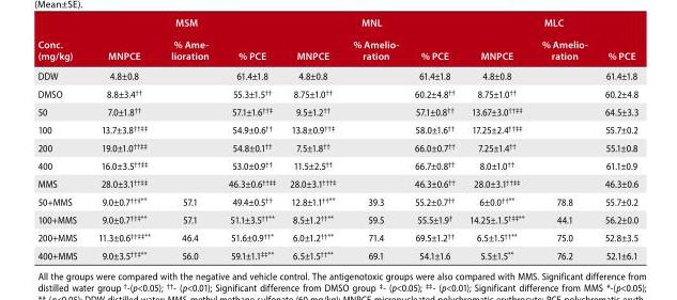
<table><thead><tr><td>Conc. (mg/kg)</td><td>MNPCE</td><td>% Ame- lioration</td><td>% PCE</td><td>MNPCE</td><td>% Amelio- ration</td><td>% PCE</td><td>MNPCE</td><td>% Amelio- ration</td><td>% PCE</td></tr></thead><tbody><tr><td>DDW</td><td>4.8±0.8</td><td></td><td>61.4±1.8</td><td>4.8±0.8</td><td></td><td>61.4±1.8</td><td>4.8±0.8</td><td></td><td>61.4±1.8</td></tr><tr><td>DMSO</td><td>8.8±3.4<sup>††</sup></td><td></td><td>55.3±1.5<sup>††</sup></td><td>8.75±1.0<sup>††</sup></td><td></td><td>60.2±4.8<sup>††</sup></td><td>8.75±1.0<sup>††</sup></td><td></td><td>60.2±4.8</td></tr><tr><td>50</td><td>7.0±1.8<sup>††</sup></td><td></td><td>57.1±1.6<sup>††‡</sup></td><td>9.5±1.2<sup>††</sup></td><td></td><td>57.1±0.8<sup>††</sup></td><td>13.67±3.0<sup>††‡‡</sup></td><td></td><td>64.5±3.3</td></tr><tr><td>100</td><td>13.7±3.8<sup>††‡‡</sup></td><td></td><td>54.9±0.6<sup>††</sup></td><td>13.8±0.9<sup>††‡</sup></td><td></td><td>58.0±1.6<sup>††</sup></td><td>17.25±2.4<sup>††‡‡</sup></td><td></td><td>55.7±0.2</td></tr><tr><td>200</td><td>19.0±1.0<sup>††‡‡</sup></td><td></td><td>54.8±0.1<sup>††</sup></td><td>7.5±1.8<sup>††</sup></td><td></td><td>66.0±0.7<sup>††</sup></td><td>7.25±1.4<sup>††</sup></td><td></td><td>55.1±0.8</td></tr><tr><td>400</td><td>16.0±3.5<sup>††‡‡</sup></td><td></td><td>53.0±0.9<sup>††</sup></td><td>11.5±2.5<sup>††</sup></td><td></td><td>66.7±0.8<sup>††</sup></td><td>8.0±1.0<sup>††</sup></td><td></td><td>61.1±0.9</td></tr><tr><td>MMS</td><td>28.0±3.1<sup>††‡‡</sup></td><td></td><td>46.3±0.6<sup>††‡‡</sup></td><td>28.0±3.1<sup>†††‡</sup></td><td></td><td>46.3±0.6<sup>††</sup></td><td>28.0±3.1<sup>††‡‡</sup></td><td></td><td>46.3±0.6</td></tr><tr><td>50+MMS</td><td>9.0±0.7<sup>††‡</sup>**</td><td>57.1</td><td>49.4±0.5<sup>††</sup></td><td>12.8±1.1<sup>††</sup>**</td><td>39.3</td><td>55.2±0.7<sup>††</sup></td><td>6±0.0<sup>††</sup>**</td><td>78.8</td><td>55.7±0.2</td></tr><tr><td>100+MMS</td><td>9.0±0.7<sup>††‡</sup>**</td><td>57.1</td><td>51.1±3.5<sup>††</sup>**</td><td>8.5±1.2<sup>††</sup>**</td><td>59.5</td><td>55.5±1.9<sup>†</sup></td><td>14.25±.1.5<sup>†‡‡</sup>**</td><td>44.1</td><td>56.2±0.0</td></tr><tr><td>200+MMS</td><td>11.3±0.6<sup>††‡‡</sup>**</td><td>46.4</td><td>51.6±0.9<sup>††</sup>*</td><td>6.0±1.2<sup>††</sup>**</td><td>71.4</td><td>69.5±1.2<sup>††</sup></td><td>6.5±1.5<sup>††</sup>**</td><td>75.0</td><td>52.8±3.5</td></tr><tr><td>400+MMS</td><td>9.0±3.5<sup>††‡</sup>**</td><td>56.0</td><td>59.1±1.1‡‡**</td><td>6.5±1.5<sup>††</sup>**</td><td>69.1</td><td>54.1±1.6</td><td>5.5±1.5**</td><td>76.2</td><td>52.1±6.1</td></tr></tbody></table>